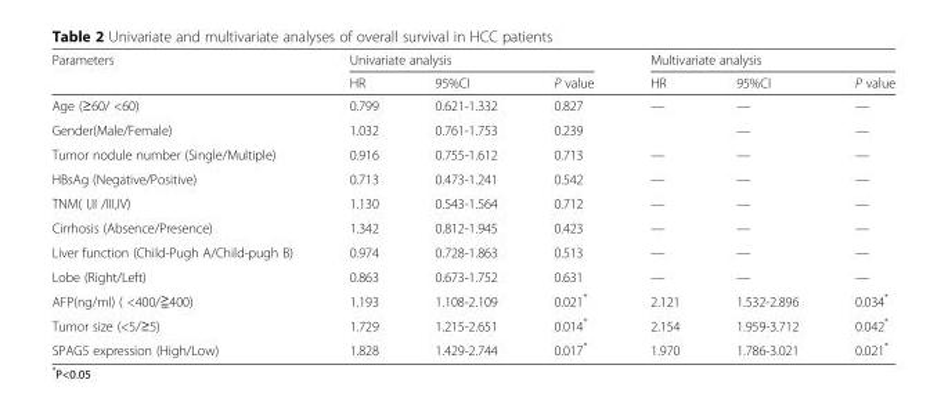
<table><thead><tr><td rowspan="2">Parameters</td><td colspan="3">Univariate analysis</td><td colspan="3">Multivariate analysis</td></tr><tr><td>HR</td><td>95%CI</td><td>P value</td><td>HR</td><td>95%CI</td><td>P value</td></tr></thead><tbody><tr><td>Age (≥60/ &lt;60)</td><td>0.799</td><td>0.621-1.332</td><td>0.827</td><td>—</td><td>—</td><td>—</td></tr><tr><td>Gender(Male/Female)</td><td>1.032</td><td>0.761-1.753</td><td>0.239</td><td></td><td>—</td><td>—</td></tr><tr><td>Tumor nodule number (Single/Multiple)</td><td>0.916</td><td>0.755-1.612</td><td>0.713</td><td>—</td><td>—</td><td>—</td></tr><tr><td>HBsAg (Negative/Positive)</td><td>0.713</td><td>0.473-1.241</td><td>0.542</td><td>—</td><td>—</td><td>—</td></tr><tr><td>TNM( I,II /III,IV)</td><td>1.130</td><td>0.543-1.564</td><td>0.712</td><td>—</td><td>—</td><td>—</td></tr><tr><td>Cirrhosis (Absence/Presence)</td><td>1.342</td><td>0.812-1.945</td><td>0.423</td><td>—</td><td>—</td><td>—</td></tr><tr><td>Liver function (Child-Pugh A/Child-pugh B)</td><td>0.974</td><td>0.728-1.863</td><td>0.513</td><td>—</td><td>—</td><td>—</td></tr><tr><td>Lobe (Right/Left)</td><td>0.863</td><td>0.673-1.752</td><td>0.631</td><td>—</td><td>—</td><td>—</td></tr><tr><td>AFP(ng/ml) ( &lt;400/≧400)</td><td>1.193</td><td>1.108-2.109</td><td>0.021*</td><td>2.121</td><td>1.532-2.896</td><td>0.034*</td></tr><tr><td>Tumor size (&lt;5/≥5)</td><td>1.729</td><td>1.215-2.651</td><td>0.014*</td><td>2.154</td><td>1.959-3.712</td><td>0.042*</td></tr><tr><td>SPAG5 expression (High/Low)</td><td>1.828</td><td>1.429-2.744</td><td>0.017*</td><td>1.970</td><td>1.786-3.021</td><td>0.021*</td></tr></tbody></table>